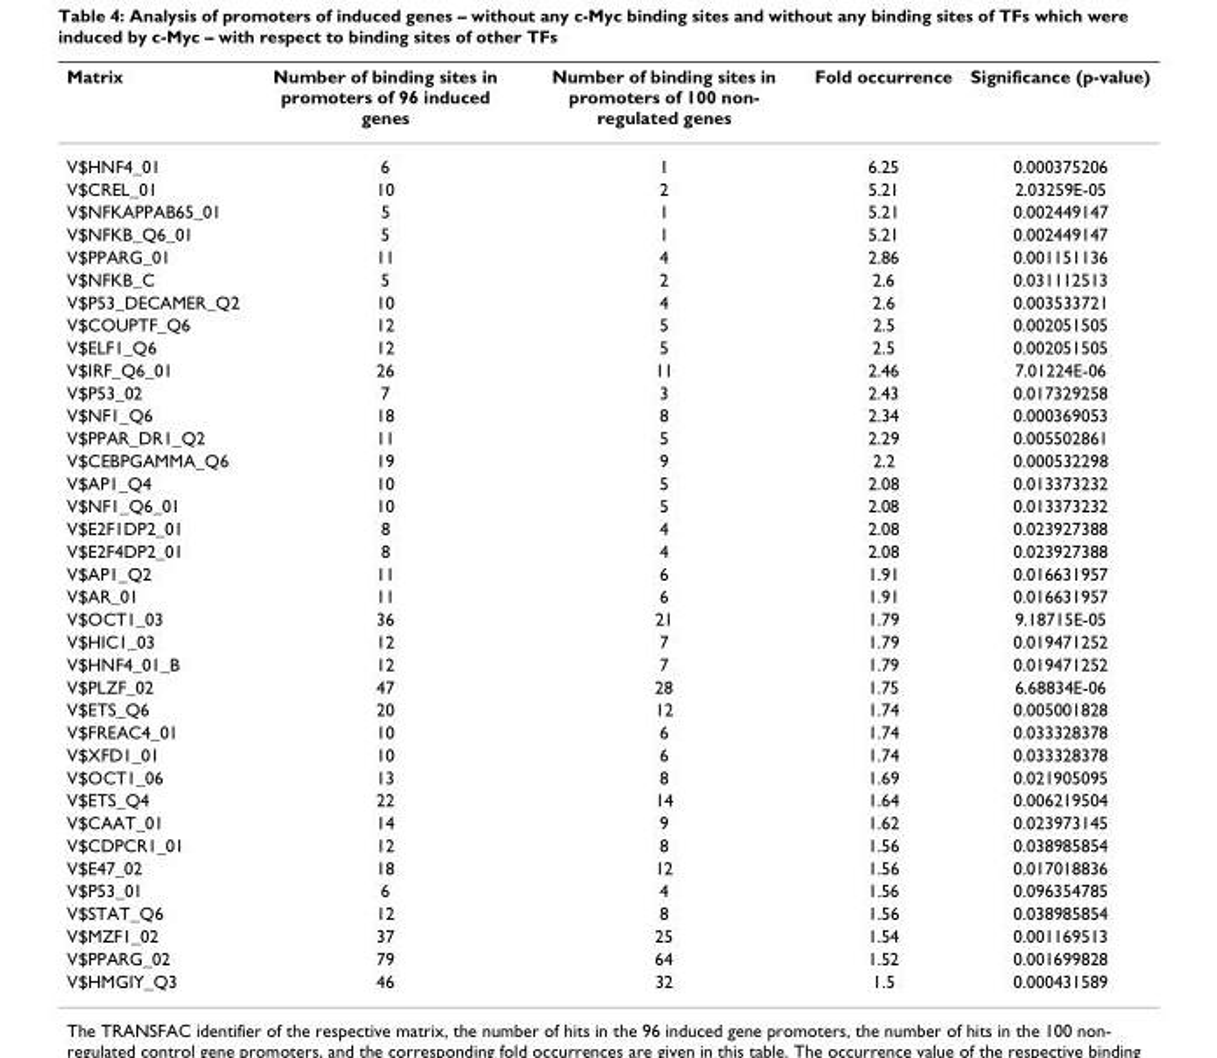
<table><thead><tr><td>Matrix</td><td>Number of binding sites in promoters of 96 induced genes</td><td>Number of binding sites in promoters of 100 non- regulated genes</td><td>Fold occurrence</td><td>Significance (p-value)</td></tr></thead><tbody><tr><td>V$HNF4_01</td><td>6</td><td>1</td><td>6.25</td><td>0.000375206</td></tr><tr><td>V$CREL_01</td><td>10</td><td>2</td><td>5.21</td><td>2.03259E-05</td></tr><tr><td>V$NFKAPPAB65_01</td><td>5</td><td>1</td><td>5.21</td><td>0.002449147</td></tr><tr><td>V$NFKB_Q6_01</td><td>5</td><td>1</td><td>5.21</td><td>0.002449147</td></tr><tr><td>V$PPARG_01</td><td>11</td><td>4</td><td>2.86</td><td>0.001151136</td></tr><tr><td>V$NFKB_C</td><td>5</td><td>2</td><td>2.6</td><td>0.031112513</td></tr><tr><td>V$P53_DECAMER_Q2</td><td>10</td><td>4</td><td>2.6</td><td>0.003533721</td></tr><tr><td>V$COUPTF_Q6</td><td>12</td><td>5</td><td>2.5</td><td>0.002051505</td></tr><tr><td>V$ELF1_Q6</td><td>12</td><td>5</td><td>2.5</td><td>0.002051505</td></tr><tr><td>V$IRF_Q6_01</td><td>26</td><td>11</td><td>2.46</td><td>7.01224E-06</td></tr><tr><td>V$P53_02</td><td>7</td><td>3</td><td>2.43</td><td>0.017329258</td></tr><tr><td>V$NF1_Q6</td><td>18</td><td>8</td><td>2.34</td><td>0.000369053</td></tr><tr><td>V$PPAR_DR1_Q2</td><td>11</td><td>5</td><td>2.29</td><td>0.005502861</td></tr><tr><td>V$CEBPGAMMA_Q6</td><td>19</td><td>9</td><td>2.2</td><td>0.000532298</td></tr><tr><td>V$AP1_Q4</td><td>10</td><td>5</td><td>2.08</td><td>0.013373232</td></tr><tr><td>V$NF1_Q6_01</td><td>10</td><td>5</td><td>2.08</td><td>0.013373232</td></tr><tr><td>V$E2F1DP2_01</td><td>8</td><td>4</td><td>2.08</td><td>0.023927388</td></tr><tr><td>V$E2F4DP2_01</td><td>8</td><td>4</td><td>2.08</td><td>0.023927388</td></tr><tr><td>V$AP1_Q2</td><td>11</td><td>6</td><td>1.91</td><td>0.016631957</td></tr><tr><td>V$AR_01</td><td>11</td><td>6</td><td>1.91</td><td>0.016631957</td></tr><tr><td>V$OCT1_03</td><td>36</td><td>21</td><td>1.79</td><td>9.18715E-05</td></tr><tr><td>V$HIC1_03</td><td>12</td><td>7</td><td>1.79</td><td>0.019471252</td></tr><tr><td>V$HNF4_01_B</td><td>12</td><td>7</td><td>1.79</td><td>0.019471252</td></tr><tr><td>V$PLZF_02</td><td>47</td><td>28</td><td>1.75</td><td>6.68834E-06</td></tr><tr><td>V$ETS_Q6</td><td>20</td><td>12</td><td>1.74</td><td>0.005001828</td></tr><tr><td>V$FREAC4_01</td><td>10</td><td>6</td><td>1.74</td><td>0.033328378</td></tr><tr><td>V$XFD1_01</td><td>10</td><td>6</td><td>1.74</td><td>0.033328378</td></tr><tr><td>V$OCT1_06</td><td>13</td><td>8</td><td>1.69</td><td>0.021905095</td></tr><tr><td>V$ETS_Q4</td><td>22</td><td>14</td><td>1.64</td><td>0.006219504</td></tr><tr><td>V$CAAT_01</td><td>14</td><td>9</td><td>1.62</td><td>0.023973145</td></tr><tr><td>V$CDPCR1_01</td><td>12</td><td>8</td><td>1.56</td><td>0.038985854</td></tr><tr><td>V$E47_02</td><td>18</td><td>12</td><td>1.56</td><td>0.017018836</td></tr><tr><td>V$P53_01</td><td>6</td><td>4</td><td>1.56</td><td>0.096354785</td></tr><tr><td>V$STAT_Q6</td><td>12</td><td>8</td><td>1.56</td><td>0.038985854</td></tr><tr><td>V$MZF1_02</td><td>37</td><td>25</td><td>1.54</td><td>0.001169513</td></tr><tr><td>V$PPARG_02</td><td>79</td><td>64</td><td>1.52</td><td>0.001699828</td></tr><tr><td>V$HMGIY_Q3</td><td>46</td><td>32</td><td>1.5</td><td>0.000431589</td></tr></tbody></table>